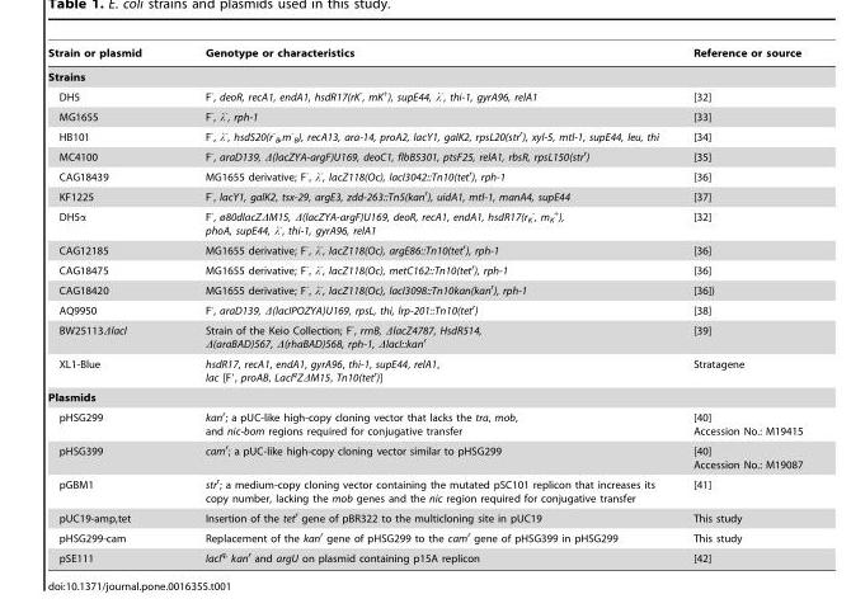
<table><thead><tr><td>Strain or plasmid</td><td>Genotype or characteristics</td><td>Reference or source</td></tr></thead><tbody><tr><td colspan="3">Strains</td></tr><tr><td>DH5</td><td>F<sup>-</sup>, deoR, recA1, endA1, hsdR17(rK<sup>-</sup>, mK<sup>+</sup>), supE44, λ<sup>-</sup>, thi-1, gyrA96, relA1</td><td>[32]</td></tr><tr><td>MG1655</td><td>F<sup>-</sup>, λ<sup>-</sup>, rph-1</td><td>[33]</td></tr><tr><td>HB101</td><td>F<sup>-</sup>, λ<sup>-</sup>, hsdS20(r<sup>-</sup> <sub>B</sub>,m<sup>-</sup> <sub>B</sub>), recA13, ara-14, proA2, lacY1, galK2, rpsL20(str<sup>r</sup>), xyl-5, mtl-1, supE44, leu, thi</td><td>[34]</td></tr><tr><td>MC4100</td><td>F<sup>-</sup>, araD139, Δ(lacZYA-argF)U169, deoC1, flbB5301, ptsF25, relA1, rbsR, rpsL150(str<sup>r</sup>)</td><td>[35]</td></tr><tr><td>CAG18439</td><td>MG1655 derivative; F<sup>-</sup>, λ<sup>-</sup>, lacZ118(Oc), lacI3042::Tn10(tet<sup>r</sup>), rph-1</td><td>[36]</td></tr><tr><td>KF1225</td><td>F<sup>-</sup>, lacY1, galK2, tsx-29, argE3, zdd-263::Tn5(kan<sup>r</sup>), uidA1, mtl-1, manA4, supE44</td><td>[37]</td></tr><tr><td>DH5α</td><td>F<sup>-</sup>, ø80dlacZΔM15, Δ(lacZYA-argF)U169, deoR, recA1, endA1, hsdR17(r<sub>K</sub> <sup>-</sup>, m<sub>K</sub> <sup>+</sup>), phoA, supE44, λ<sup>-</sup>, thi-1, gyrA96, relA1</td><td>[32]</td></tr><tr><td>CAG12185</td><td>MG1655 derivative; F<sup>-</sup>, λ<sup>-</sup>, lacZ118(Oc), argE86::Tn10(tet<sup>r</sup>), rph-1</td><td>[36]</td></tr><tr><td>CAG18475</td><td>MG1655 derivative; F<sup>-</sup>, λ<sup>-</sup>, lacZ118(Oc), metC162::Tn10(tet<sup>r</sup>), rph-1</td><td>[36]</td></tr><tr><td>CAG18420</td><td>MG1655 derivative; F<sup>-</sup>, λ<sup>-</sup>, lacZ118(Oc), lacI3098::Tn10kan(kan<sup>r</sup>), rph-1</td><td>[36])</td></tr><tr><td>AQ9950</td><td>F<sup>-</sup>, araD139, Δ(lacIPOZYA)U169, rpsL, thi, lrp-201::Tn10(tet<sup>r</sup>)</td><td>[38]</td></tr><tr><td>BW25113ΔlacI</td><td>Strain of the Keio Collection; F<sup>-</sup>, rrnB, ΔlacZ4787, HsdR514, Δ(araBAD)567, Δ(rhaBAD)568, rph-1, ΔlacI::kan<sup>r</sup></td><td>[39]</td></tr><tr><td>XL1-Blue</td><td>hsdR17, recA1, endA1, gyrA96, thi-1, supE44, relA1, lac [F′, proAB, LacI<sup>q</sup>ZΔM15, Tn10(tet<sup>r</sup>)]</td><td>Stratagene</td></tr><tr><td colspan="3">Plasmids</td></tr><tr><td>pHSG299</td><td>kan<sup>r</sup>; a pUC-like high-copy cloning vector that lacks the tra, mob, and nic-bom regions required for conjugative transfer</td><td>[40] Accession No.: M19415</td></tr><tr><td>pHSG399</td><td>cam<sup>r</sup>; a pUC-like high-copy cloning vector similar to pHSG299</td><td>[40] Accession No.: M19087</td></tr><tr><td>pGBM1</td><td>str<sup>r</sup>; a medium-copy cloning vector containing the mutated pSC101 replicon that increases its copy number, lacking the mob genes and the nic region required for conjugative transfer</td><td>[41]</td></tr><tr><td>pUC19-amp,tet</td><td>Insertion of the tet<sup>r</sup> gene of pBR322 to the multicloning site in pUC19</td><td>This study</td></tr><tr><td>pHSG299-cam</td><td>Replacement of the kan<sup>r</sup> gene of pHSG299 to the cam<sup>r</sup> gene of pHSG399 in pHSG299</td><td>This study</td></tr><tr><td>pSE111</td><td>lacI<sup>q,</sup> kan<sup>r</sup> and argU on plasmid containing p15A replicon</td><td>[42]</td></tr></tbody></table>